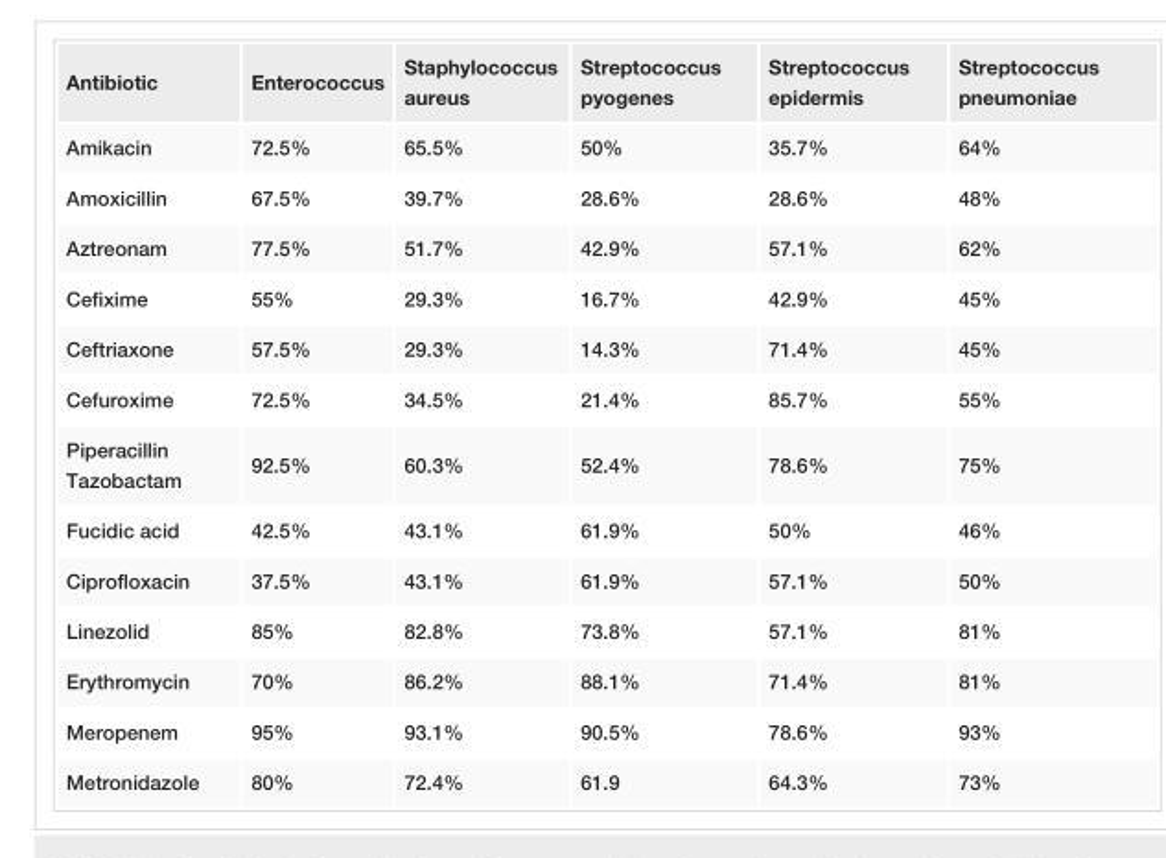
<table><tbody><tr><td>Antibiotic</td><td>Enterococcus</td><td>Staphylococcus aureus</td><td>Streptococcus pyogenes</td><td>Streptococcus epidermis</td><td>Streptococcus pneumoniae</td></tr><tr><td>Amikacin</td><td>72.5%</td><td>65.5%</td><td>50%</td><td>35.7%</td><td>64%</td></tr><tr><td>Amoxicillin</td><td>67.5%</td><td>39.7%</td><td>28.6%</td><td>28.6%</td><td>48%</td></tr><tr><td>Aztreonam</td><td>77.5%</td><td>51.7%</td><td>42.9%</td><td>57.1%</td><td>62%</td></tr><tr><td>Cefixime</td><td>55%</td><td>29.3%</td><td>16.7%</td><td>42.9%</td><td>45%</td></tr><tr><td>Ceftriaxone</td><td>57.5%</td><td>29.3%</td><td>14.3%</td><td>71.4%</td><td>45%</td></tr><tr><td>Cefuroxime</td><td>72.5%</td><td>34.5%</td><td>21.4%</td><td>85.7%</td><td>55%</td></tr><tr><td>Piperacillin Tazobactam</td><td>92.5%</td><td>60.3%</td><td>52.4%</td><td>78.6%</td><td>75%</td></tr><tr><td>Fucidic acid</td><td>42.5%</td><td>43.1%</td><td>61.9%</td><td>50%</td><td>46%</td></tr><tr><td>Ciprofloxacin</td><td>37.5%</td><td>43.1%</td><td>61.9%</td><td>57.1%</td><td>50%</td></tr><tr><td>Linezolid</td><td>85%</td><td>82.8%</td><td>73.8%</td><td>57.1%</td><td>81%</td></tr><tr><td>Erythromycin</td><td>70%</td><td>86.2%</td><td>88.1%</td><td>71.4%</td><td>81%</td></tr><tr><td>Meropenem</td><td>95%</td><td>93.1%</td><td>90.5%</td><td>78.6%</td><td>93%</td></tr><tr><td>Metronidazole</td><td>80%</td><td>72.4%</td><td>61.9</td><td>64.3%</td><td>73%</td></tr></tbody></table>